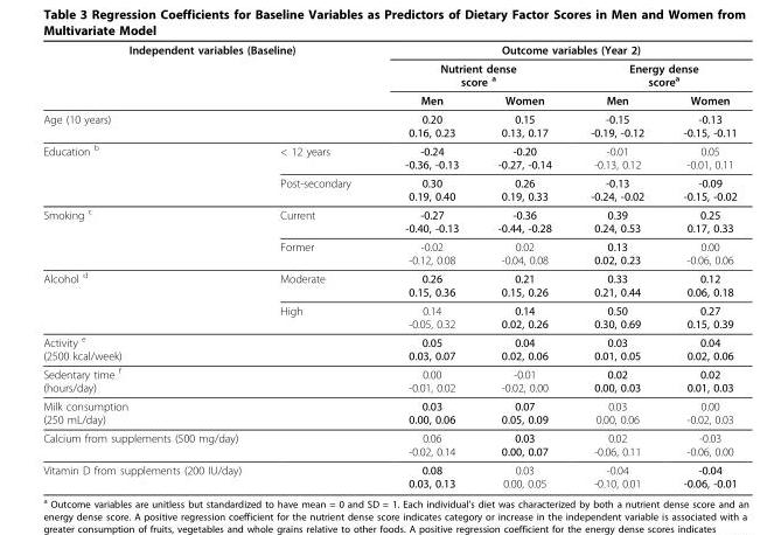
<table><thead><tr><td colspan="2">Independent variables (Baseline)</td><td colspan="4">Outcome variables (Year 2)</td></tr><tr><td rowspan="2"></td><td rowspan="2"></td><td colspan="2">Nutrient dense score <sup>a</sup></td><td colspan="2">Energy dense score<sup>a</sup></td></tr><tr><td>Men</td><td>Women</td><td>Men</td><td>Women</td></tr></thead><tbody><tr><td>Age (10 years)</td><td></td><td>0.20 0.16, 0.23</td><td>0.15 0.13, 0.17</td><td>-0.15 -0.19, -0.12</td><td>-0.13 -0.15, -0.11</td></tr><tr><td rowspan="2">Education <sup>b</sup></td><td>&lt; 12 years</td><td>-0.24 -0.36, -0.13</td><td>-0.20 -0.27, -0.14</td><td>-0.01 -0.13, 0.12</td><td>0.05 -0.01, 0.11</td></tr><tr><td>Post-secondary</td><td>0.30 0.19, 0.40</td><td>0.26 0.19, 0.33</td><td>-0.13 -0.24, -0.02</td><td>-0.09 -0.15, -0.02</td></tr><tr><td rowspan="2">Smoking <sup>c</sup></td><td>Current</td><td>-0.27 -0.40, -0.13</td><td>-0.36 -0.44, -0.28</td><td>0.39 0.24, 0.53</td><td>0.25 0.17, 0.33</td></tr><tr><td>Former</td><td>-0.02 -0.12, 0.08</td><td>0.02 -0.04, 0.08</td><td>0.13 0.02, 0.23</td><td>0.00 -0.06, 0.06</td></tr><tr><td rowspan="2">Alcohol <sup>d</sup></td><td>Moderate</td><td>0.26 0.15, 0.36</td><td>0.21 0.15, 0.26</td><td>0.33 0.21, 0.44</td><td>0.12 0.06, 0.18</td></tr><tr><td>High</td><td>0.14 -0.05, 0.32</td><td>0.14 0.02, 0.26</td><td>0.50 0.30, 0.69</td><td>0.27 0.15, 0.39</td></tr><tr><td>Activity <sup>e</sup> (2500 kcal/week)</td><td></td><td>0.05 0.03, 0.07</td><td>0.04 0.02, 0.06</td><td>0.03 0.01, 0.05</td><td>0.04 0.02, 0.06</td></tr><tr><td>Sedentary time <sup>f</sup> (hours/day)</td><td></td><td>0.00 -0.01, 0.02</td><td>-0.01 -0.02, 0.00</td><td>0.02 0.00, 0.03</td><td>0.02 0.01, 0.03</td></tr><tr><td>Milk consumption (250 mL/day)</td><td></td><td>0.03 0.00, 0.06</td><td>0.07 0.05, 0.09</td><td>0.03 0.00, 0.06</td><td>0.00 -0.02, 0.03</td></tr><tr><td>Calcium from supplements (500 mg/day)</td><td></td><td>0.06 -0.02, 0.14</td><td>0.03 0.00, 0.07</td><td>0.02 -0.06, 0.11</td><td>-0.03 -0.06, 0.00</td></tr><tr><td>Vitamin D from supplements (200 IU/day)</td><td></td><td>0.08 0.03, 0.13</td><td>0.03 0.00, 0.05</td><td>-0.04 -0.10, 0.01</td><td>-0.04 -0.06, -0.01</td></tr></tbody></table>